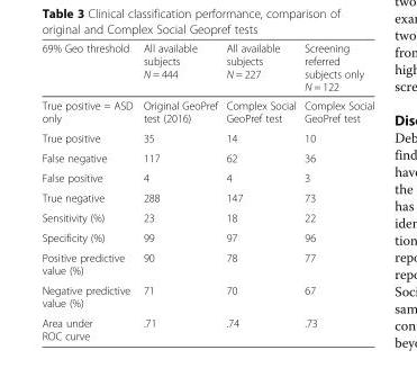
<table><thead><tr><td>69% Geo threshold</td><td>All available subjects N = 444</td><td>All available subjects N = 227</td><td>Screening referred subjects only N = 122</td></tr></thead><tbody><tr><td>True positive = ASD only</td><td>Original GeoPref test (2016)</td><td>Complex Social GeoPref test</td><td>Complex Social GeoPref test</td></tr><tr><td>True positive</td><td>35</td><td>14</td><td>10</td></tr><tr><td>False negative</td><td>117</td><td>62</td><td>36</td></tr><tr><td>False positive</td><td>4</td><td>4</td><td>3</td></tr><tr><td>True negative</td><td>288</td><td>147</td><td>73</td></tr><tr><td>Sensitivity (%)</td><td>23</td><td>18</td><td>22</td></tr><tr><td>Specificity (%)</td><td>99</td><td>97</td><td>96</td></tr><tr><td>Positive predictive value (%)</td><td>90</td><td>78</td><td>77</td></tr><tr><td>Negative predictive value (%)</td><td>71</td><td>70</td><td>67</td></tr><tr><td>Area under ROC curve</td><td>.71</td><td>.74</td><td>.73</td></tr></tbody></table>